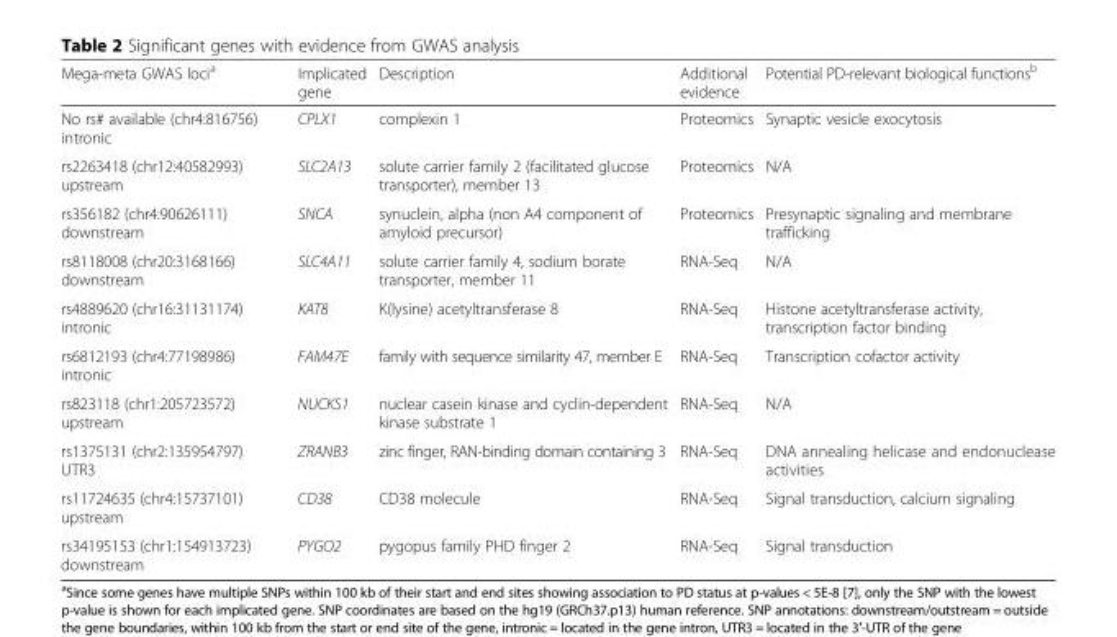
<table><thead><tr><td>Mega-meta GWAS loci<sup>a</sup></td><td>Implicated gene</td><td>Description</td><td>Additional evidence</td><td>Potential PD-relevant biological functions<sup>b</sup></td></tr></thead><tbody><tr><td>No rs# available (chr4:816756) intronic</td><td>CPLX1</td><td>complexin 1</td><td>Proteomics</td><td>Synaptic vesicle exocytosis</td></tr><tr><td>rs2263418 (chr12:40582993) upstream</td><td>SLC2A13</td><td>solute carrier family 2 (facilitated glucose transporter), member 13</td><td>Proteomics</td><td>N/A</td></tr><tr><td>rs356182 (chr4:90626111) downstream</td><td>SNCA</td><td>synuclein, alpha (non A4 component of amyloid precursor)</td><td>Proteomics</td><td>Presynaptic signaling and membrane trafficking</td></tr><tr><td>rs8118008 (chr20:3168166) downstream</td><td>SLC4A11</td><td>solute carrier family 4, sodium borate transporter, member 11</td><td>RNA-Seq</td><td>N/A</td></tr><tr><td>rs4889620 (chr16:31131174) intronic</td><td>KAT8</td><td>K(lysine) acetyltransferase 8</td><td>RNA-Seq</td><td>Histone acetyltransferase activity, transcription factor binding</td></tr><tr><td>rs6812193 (chr4:77198986) intronic</td><td>FAM47E</td><td>family with sequence similarity 47, member E</td><td>RNA-Seq</td><td>Transcription cofactor activity</td></tr><tr><td>rs823118 (chr1:205723572) upstream</td><td>NUCKS1</td><td>nuclear casein kinase and cyclin-dependent kinase substrate 1</td><td>RNA-Seq</td><td>N/A</td></tr><tr><td>rs1375131 (chr2:135954797) UTR3</td><td>ZRANB3</td><td>zinc finger, RAN-binding domain containing 3</td><td>RNA-Seq</td><td>DNA annealing helicase and endonuclease activities</td></tr><tr><td>rs11724635 (chr4:15737101) upstream</td><td>CD38</td><td>CD38 molecule</td><td>RNA-Seq</td><td>Signal transduction, calcium signaling</td></tr><tr><td>rs34195153 (chr1:154913723) downstream</td><td>PYGO2</td><td>pygopus family PHD finger 2</td><td>RNA-Seq</td><td>Signal transduction</td></tr></tbody></table>